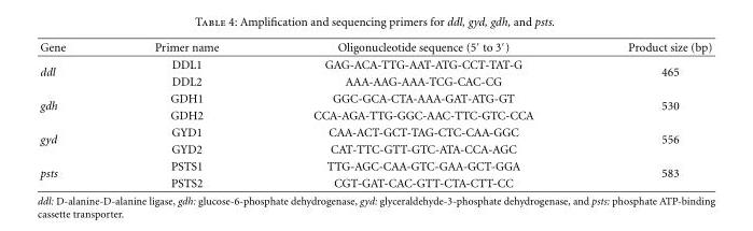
<table><thead><tr><td>Gene</td><td>Primer name</td><td>Oligonucleotide sequence (5′ to 3′)</td><td>Product size (bp)</td></tr></thead><tbody><tr><td rowspan="2">ddl</td><td>DDL1</td><td>GAG-ACA-TTG-AAT-ATG-CCT-TAT-G</td><td rowspan="2">465</td></tr><tr><td>DDL2</td><td>AAA-AAG-AAA-TCG-CAC-CG</td></tr><tr><td rowspan="2">gdh</td><td>GDH1</td><td>GGC-GCA-CTA-AAA-GAT-ATG-GT</td><td rowspan="2">530</td></tr><tr><td>GDH2</td><td>CCA-AGA-TTG-GGC-AAC-TTC-GTC-CCA</td></tr><tr><td rowspan="2">gyd</td><td>GYD1</td><td>CAA-ACT-GCT-TAG-CTC-CAA-GGC</td><td rowspan="2">556</td></tr><tr><td>GYD2</td><td>CAT-TTC-GTT-GTC-ATA-CCA-AGC</td></tr><tr><td rowspan="2">psts</td><td>PSTS1</td><td>TTG-AGC-CAA-GTC-GAA-GCT-GGA</td><td rowspan="2">583</td></tr><tr><td>PSTS2</td><td>CGT-GAT-CAC-GTT-CTA-CTT-CC</td></tr></tbody></table>